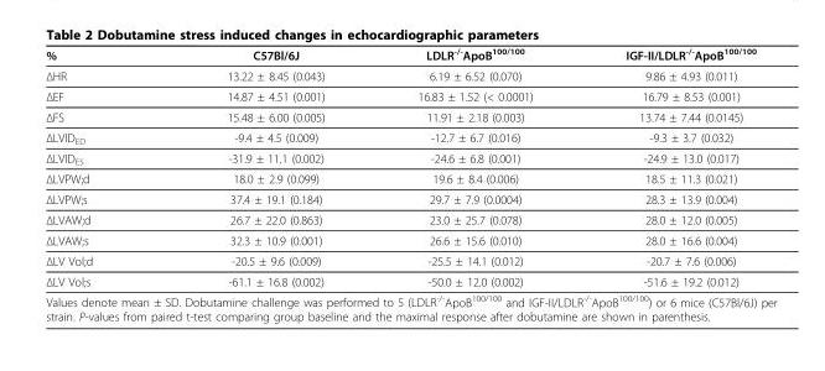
<table><thead><tr><td>%</td><td>C57Bl/6J</td><td>LDLR<sup>-/-</sup>ApoB<sup>100/100</sup></td><td>IGF-II/LDLR<sup>-/-</sup>ApoB<sup>100/100</sup></td></tr></thead><tbody><tr><td>ΔHR</td><td>13.22 ± 8.45 (0.043)</td><td>6.19 ± 6.52 (0.070)</td><td>9.86 ± 4.93 (0.011)</td></tr><tr><td>ΔEF</td><td>14.87 ± 4.51 (0.001)</td><td>16.83 ± 1.52 (&lt; 0.0001)</td><td>16.79 ± 8.53 (0.001)</td></tr><tr><td>ΔFS</td><td>15.48 ± 6.00 (0.005)</td><td>11.91 ± 2.18 (0.003)</td><td>13.74 ± 7.44 (0.0145)</td></tr><tr><td>ΔLVID<sub>ED</sub></td><td>-9.4 ± 4.5 (0.009)</td><td>-12.7 ± 6.7 (0.016)</td><td>-9.3 ± 3.7 (0.032)</td></tr><tr><td>ΔLVID<sub>ES</sub></td><td>-31.9 ± 11.1 (0.002)</td><td>-24.6 ± 6.8 (0.001)</td><td>-24.9 ± 13.0 (0.017)</td></tr><tr><td>ΔLVPW;d</td><td>18.0 ± 2.9 (0.099)</td><td>19.6 ± 8.4 (0.006)</td><td>18.5 ± 11.3 (0.021)</td></tr><tr><td>ΔLVPW;s</td><td>37.4 ± 19.1 (0.184)</td><td>29.7 ± 7.9 (0.0004)</td><td>28.3 ± 13.9 (0.004)</td></tr><tr><td>ΔLVAW;d</td><td>26.7 ± 22.0 (0.863)</td><td>23.0 ± 25.7 (0.078)</td><td>28.0 ± 12.0 (0.005)</td></tr><tr><td>ΔLVAW;s</td><td>32.3 ± 10.9 (0.001)</td><td>26.6 ± 15.6 (0.010)</td><td>28.0 ± 16.6 (0.004)</td></tr><tr><td>ΔLV Vol;d</td><td>-20.5 ± 9.6 (0.009)</td><td>-25.5 ± 14.1 (0.012)</td><td>-20.7 ± 7.6 (0.006)</td></tr><tr><td>ΔLV Vol;s</td><td>-61.1 ± 16.8 (0.002)</td><td>-50.0 ± 12.0 (0.002)</td><td>-51.6 ± 19.2 (0.012)</td></tr><tr><td colspan="4">Values denote mean ± SD. Dobutamine challenge was performed to 5 (LDLR<sup>-/-</sup>ApoB<sup>100/100</sup> and IGF-II/LDLR<sup>-/-</sup>ApoB<sup>100/100</sup>) or 6 mice (C57Bl/6J) per strain. P-values from paired t-test comparing group baseline and the maximal response after dobutamine are shown in parenthesis.</td></tr></tbody></table>